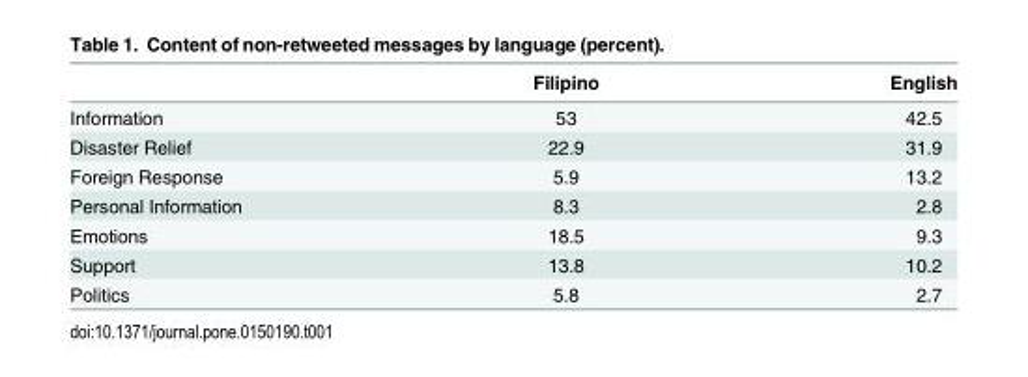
<table><thead><tr><td></td><td>Filipino</td><td>English</td></tr></thead><tbody><tr><td>Information</td><td>53</td><td>42.5</td></tr><tr><td>Disaster Relief</td><td>22.9</td><td>31.9</td></tr><tr><td>Foreign Response</td><td>5.9</td><td>13.2</td></tr><tr><td>Personal Information</td><td>8.3</td><td>2.8</td></tr><tr><td>Emotions</td><td>18.5</td><td>9.3</td></tr><tr><td>Support</td><td>13.8</td><td>10.2</td></tr><tr><td>Politics</td><td>5.8</td><td>2.7</td></tr></tbody></table>